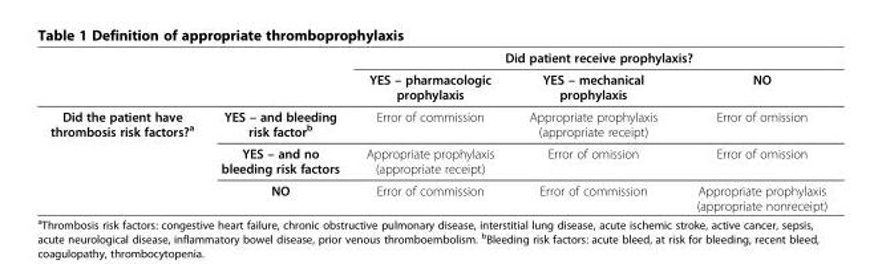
<table><thead><tr><td rowspan="2"></td><td rowspan="2"></td><td colspan="3">Did patient receive prophylaxis?</td></tr><tr><td>YES – pharmacologic prophylaxis</td><td>YES – mechanical prophylaxis</td><td>NO</td></tr></thead><tbody><tr><td rowspan="3">Did the patient have thrombosis risk factors?<sup>a</sup></td><td>YES – and bleeding risk factor<sup>b</sup></td><td>Error of commission</td><td>Appropriate prophylaxis (appropriate receipt)</td><td>Error of omission</td></tr><tr><td>YES – and no bleeding risk factors</td><td>Appropriate prophylaxis (appropriate receipt)</td><td>Error of omission</td><td>Error of omission</td></tr><tr><td>NO</td><td>Error of commission</td><td>Error of commission</td><td>Appropriate prophylaxis (appropriate nonreceipt)</td></tr></tbody></table>